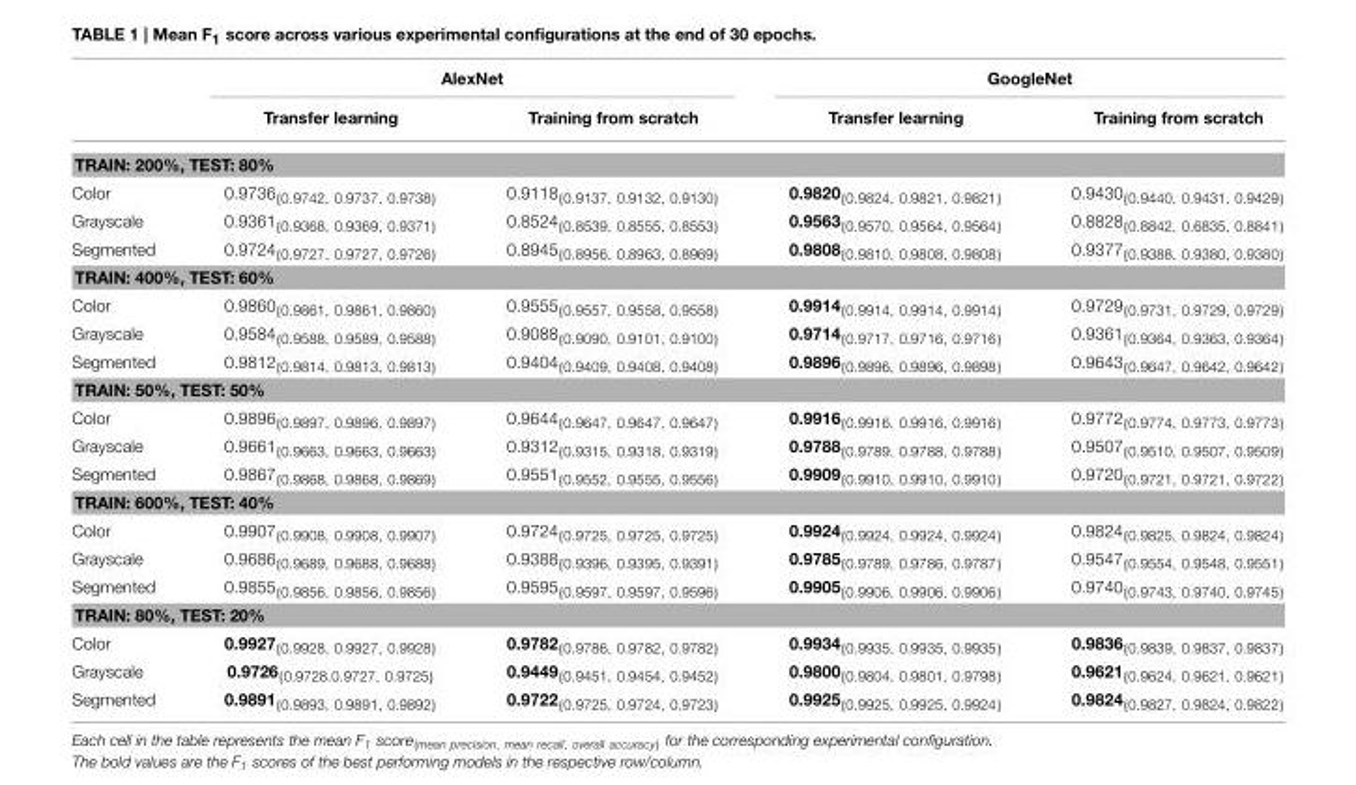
<table><thead><tr><td rowspan="2"></td><td colspan="2">AlexNet</td><td colspan="2">GoogleNet</td></tr><tr><td>Transfer learning</td><td>Training from scratch</td><td>Transfer learning</td><td>Training from scratch</td></tr></thead><tbody><tr><td colspan="5">TRAIN: 200%, TEST: 80%</td></tr><tr><td>Color</td><td>0.9736<sub>{0.9742, 0.9737, 0.9738}</sub></td><td>0.9118<sub>{0.9137, 0.9132, 0.9130}</sub></td><td>0.9820<sub>{0.9824, 0.9821, 0.9821}</sub></td><td>0.9430<sub>{0.9440, 0.9431, 0.9429}</sub></td></tr><tr><td>Grayscale</td><td>0.9361<sub>{0.9368, 0.9369, 0.9371}</sub></td><td>0.8524<sub>{0.8539, 0.8555, 0.8553}</sub></td><td>0.9563<sub>{0.9570, 0.9564, 0.9564}</sub></td><td>0.8828<sub>{0.8842, 0.6835, 0.8841}</sub></td></tr><tr><td>Segmented</td><td>0.9724<sub>{0.9727, 0.9727, 0.9726}</sub></td><td>0.8945<sub>{0.8956, 0.8963, 0.8969}</sub></td><td>0.9808<sub>{0.9810, 0.9808, 0.9808}</sub></td><td>0.9377<sub>{0.9388, 0.9380, 0.9380}</sub></td></tr><tr><td colspan="5">TRAIN: 400%, TEST: 60%</td></tr><tr><td>Color</td><td>0.9860<sub>{0.9861, 0.9861, 0.9860}</sub></td><td>0.9555<sub>{0.9557, 0.9558, 0.9558}</sub></td><td>0.9914<sub>{0.9914, 0.9914, 0.9914}</sub></td><td>0.9729<sub>{0.9731, 0.9729, 0.9729}</sub></td></tr><tr><td>Grayscale</td><td>0.9584<sub>{0.9588, 0.9589, 0.9588}</sub></td><td>0.9088<sub>{0.9090, 0.9101, 0.9100}</sub></td><td>0.9714<sub>{0.9717, 0.9716, 0.9716}</sub></td><td>0.9361<sub>{0.9364, 0.9363, 0.9364}</sub></td></tr><tr><td>Segmented</td><td>0.9812<sub>{0.9814, 0.9813, 0.9813}</sub></td><td>0.9404<sub>{0.9409, 0.9408, 0.9408}</sub></td><td>0.9896<sub>{0.9896, 0.9896, 0.9898}</sub></td><td>0.9643<sub>{0.9647, 0.9642, 0.9642}</sub></td></tr><tr><td colspan="5">TRAIN: 50%, TEST: 50%</td></tr><tr><td>Color</td><td>0.9896<sub>{0.9897, 0.9896, 0.9897}</sub></td><td>0.9644<sub>{0.9647, 0.9647, 0.9647}</sub></td><td>0.9916<sub>{0.9916, 0.9916, 0.9916}</sub></td><td>0.9772<sub>{0.9774, 0.9773, 0.9773}</sub></td></tr><tr><td>Grayscale</td><td>0.9661<sub>{0.9663, 0.9663, 0.9663}</sub></td><td>0.9312<sub>{0.9315, 0.9318, 0.9319}</sub></td><td>0.9788<sub>{0.9789, 0.9788, 0.9788}</sub></td><td>0.9507<sub>{0.9510, 0.9507, 0.9509}</sub></td></tr><tr><td>Segmented</td><td>0.9867<sub>{0.9868, 0.9868, 0.9869}</sub></td><td>0.9551<sub>{0.9552, 0.9555, 0.9556}</sub></td><td>0.9909<sub>{0.9910, 0.9910, 0.9910}</sub></td><td>0.9720<sub>{0.9721, 0.9721, 0.9722}</sub></td></tr><tr><td colspan="5">TRAIN: 600%, TEST: 40%</td></tr><tr><td>Color</td><td>0.9907<sub>{0.9908, 0.9908, 0.9907}</sub></td><td>0.9724<sub>{0.9725, 0.9725, 0.9725}</sub></td><td>0.9924<sub>{0.9924, 0.9924, 0.9924}</sub></td><td>0.9824<sub>{0.9825, 0.9824, 0.9824}</sub></td></tr><tr><td>Grayscale</td><td>0.9686<sub>{0.9689, 0.9688, 0.9688}</sub></td><td>0.9388<sub>{0.9396, 0.9395, 0.9391}</sub></td><td>0.9785<sub>{0.9789, 0.9786, 0.9787}</sub></td><td>0.9547<sub>{0.9554, 0.9548, 0.9551}</sub></td></tr><tr><td>Segmented</td><td>0.9855<sub>{0.9856, 0.9856, 0.9856}</sub></td><td>0.9595<sub>{0.9597, 0.9597, 0.9596}</sub></td><td>0.9905{<sub>0.9906, 0.9906, 0.9906}</sub></td><td>0.9740<sub>{0.9743, 0.9740, 0.9745}</sub></td></tr><tr><td colspan="5">TRAIN: 80%, TEST: 20%</td></tr><tr><td>Color</td><td>0.9927{0.9928, 0.9927, 0.9928}</td><td>0.9782<sub>{0.9786, 0.9782, 0.9782}</sub></td><td>0.9934<sub>{0.9935, 0.9935, 0.9935}</sub></td><td>0.9836<sub>{0.9839, 0.9837, 0.9837}</sub></td></tr><tr><td>Grayscale</td><td>0.9726{0.9728.0.9727, 0.9725}</td><td>0.9449<sub>{0.9451, 0.9454, 0.9452}</sub></td><td>0.9800<sub>{0.9804, 0.9801, 0.9798}</sub></td><td>0.9621<sub>{0.9624, 0.9621, 0.9621}</sub></td></tr><tr><td>Segmented</td><td>0.9891<sub>{0.9893, 0.9891, 0.9892}</sub></td><td>0.9722<sub>{0.9725, 0.9724, 0.9723}</sub></td><td>0.9925<sub>{0.9925, 0.9925, 0.9924}</sub></td><td>0.9824<sub>{0.9827, 0.9824, 0.9822}</sub></td></tr></tbody></table>